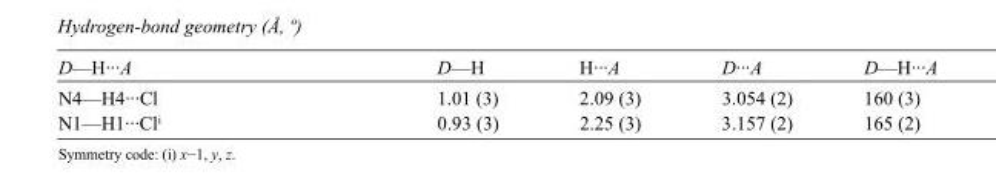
<table><tbody><tr><td>D—H···A</td><td>D—H</td><td>H···A</td><td>D···A</td><td>D—H···A</td></tr><tr><td>N4—H4···Cl</td><td>1.01 (3)</td><td>2.09 (3)</td><td>3.054 (2)</td><td>160 (3)</td></tr><tr><td>N1—H1···Cl<sup>i</sup></td><td>0.93 (3)</td><td>2.25 (3)</td><td>3.157 (2)</td><td>165 (2)</td></tr></tbody></table>